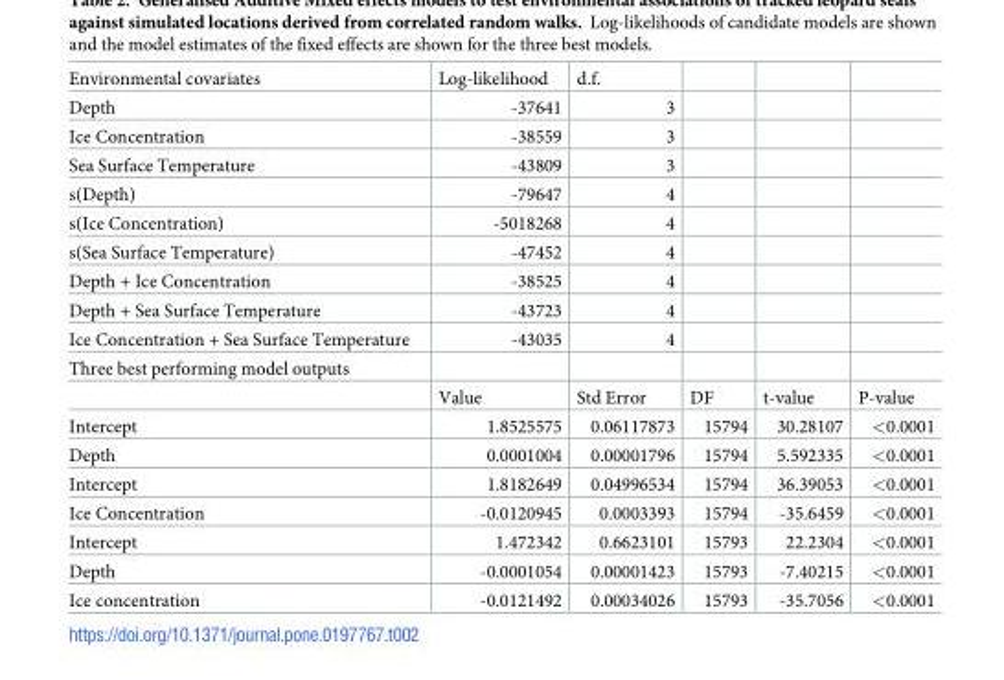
<table><tbody><tr><td>Environmental covariates</td><td>Log-likelihood</td><td>d.f.</td><td></td><td></td><td></td></tr><tr><td>Depth</td><td>-37641</td><td>3</td><td></td><td></td><td></td></tr><tr><td>Ice Concentration</td><td>-38559</td><td>3</td><td></td><td></td><td></td></tr><tr><td>Sea Surface Temperature</td><td>-43809</td><td>3</td><td></td><td></td><td></td></tr><tr><td>s(Depth)</td><td>-79647</td><td>4</td><td></td><td></td><td></td></tr><tr><td>s(Ice Concentration)</td><td>-5018268</td><td>4</td><td></td><td></td><td></td></tr><tr><td>s(Sea Surface Temperature)</td><td>-47452</td><td>4</td><td></td><td></td><td></td></tr><tr><td>Depth + Ice Concentration</td><td>-38525</td><td>4</td><td></td><td></td><td></td></tr><tr><td>Depth + Sea Surface Temperature</td><td>-43723</td><td>4</td><td></td><td></td><td></td></tr><tr><td>Ice Concentration + Sea Surface Temperature</td><td>-43035</td><td>4</td><td></td><td></td><td></td></tr><tr><td colspan="6">Three best performing model outputs</td></tr><tr><td></td><td>Value</td><td>Std Error</td><td>DF</td><td>t-value</td><td>P-value</td></tr><tr><td>Intercept</td><td>1.8525575</td><td>0.06117873</td><td>15794</td><td>30.28107</td><td>&lt;0.0001</td></tr><tr><td>Depth</td><td>0.0001004</td><td>0.00001796</td><td>15794</td><td>5.592335</td><td>&lt;0.0001</td></tr><tr><td>Intercept</td><td>1.8182649</td><td>0.04996534</td><td>15794</td><td>36.39053</td><td>&lt;0.0001</td></tr><tr><td>Ice Concentration</td><td>-0.0120945</td><td>0.0003393</td><td>15794</td><td>-35.6459</td><td>&lt;0.0001</td></tr><tr><td>Intercept</td><td>1.472342</td><td>0.6623101</td><td>15793</td><td>22.2304</td><td>&lt;0.0001</td></tr><tr><td>Depth</td><td>-0.0001054</td><td>0.00001423</td><td>15793</td><td>-7.40215</td><td>&lt;0.0001</td></tr><tr><td>Ice concentration</td><td>-0.0121492</td><td>0.00034026</td><td>15793</td><td>-35.7056</td><td>&lt;0.0001</td></tr></tbody></table>